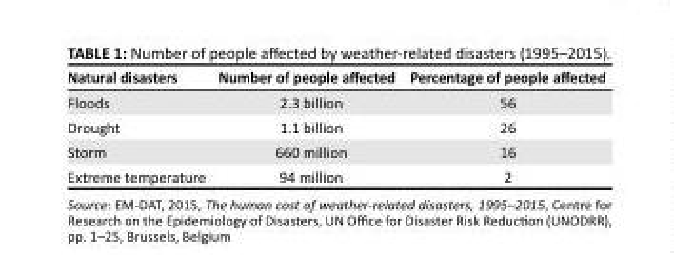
<table><thead><tr><td>Natural disasters</td><td>Number of people affected</td><td>Percentage of people affected</td></tr></thead><tbody><tr><td>Floods</td><td>2.3 billion</td><td>56</td></tr><tr><td>Drought</td><td>1.1 billion</td><td>26</td></tr><tr><td>Storm</td><td>660 million</td><td>16</td></tr><tr><td>Extreme temperature</td><td>94 million</td><td>2</td></tr></tbody></table>